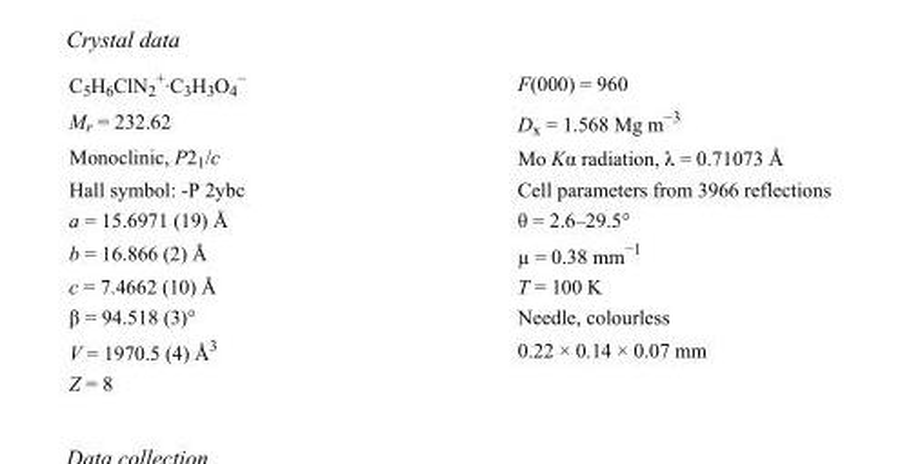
<table><tbody><tr><td>C<sub>5</sub>H<sub>6</sub>ClN<sub>2</sub> <sup>+</sup>·C<sub>3</sub>H<sub>3</sub>O<sub>4</sub> <sup>−</sup></td><td>F(000) = 960</td></tr><tr><td>M<sub>r</sub> = 232.62</td><td>D<sub>x</sub> = 1.568 Mg m<sup>−3</sup></td></tr><tr><td>Monoclinic, P2<sub>1</sub>/c</td><td>Mo Kα radiation, λ = 0.71073 Å</td></tr><tr><td>Hall symbol: -P 2ybc</td><td>Cell parameters from 3966 reflections</td></tr><tr><td>a = 15.6971 (19) Å</td><td>θ = 2.6–29.5°</td></tr><tr><td>b = 16.866 (2) Å</td><td>µ = 0.38 mm<sup>−1</sup></td></tr><tr><td>c = 7.4662 (10) Å</td><td>T = 100 K</td></tr><tr><td>β = 94.518 (3)°</td><td>Needle, colourless</td></tr><tr><td>V = 1970.5 (4) Å<sup>3</sup></td><td>0.22 × 0.14 × 0.07 mm</td></tr><tr><td>Z = 8</td><td></td></tr></tbody></table>